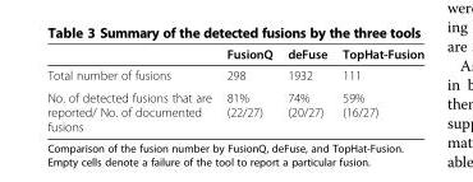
<table><thead><tr><td></td><td>FusionQ</td><td>deFuse</td><td>TopHat-Fusion</td></tr></thead><tbody><tr><td>Total number of fusions</td><td>298</td><td>1932</td><td>111</td></tr><tr><td>No. of detected fusions that are reported/ No. of documented fusions</td><td>81% (22/27)</td><td>74% (20/27)</td><td>59% (16/27)</td></tr></tbody></table>